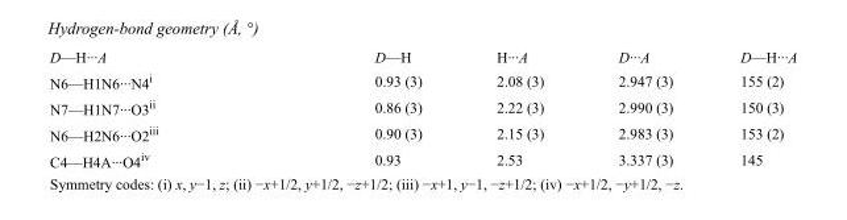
<table><tbody><tr><td>D—H···A</td><td>D—H</td><td>H···A</td><td>D···A</td><td>D—H···A</td></tr><tr><td>N6—H1N6···N4<sup>i</sup></td><td>0.93 (3)</td><td>2.08 (3)</td><td>2.947 (3)</td><td>155 (2)</td></tr><tr><td>N7—H1N7···O3<sup>ii</sup></td><td>0.86 (3)</td><td>2.22 (3)</td><td>2.990 (3)</td><td>150 (3)</td></tr><tr><td>N6—H2N6···O2<sup>iii</sup></td><td>0.90 (3)</td><td>2.15 (3)</td><td>2.983 (3)</td><td>153 (2)</td></tr><tr><td>C4—H4A···O4<sup>iv</sup></td><td>0.93</td><td>2.53</td><td>3.337 (3)</td><td>145</td></tr></tbody></table>